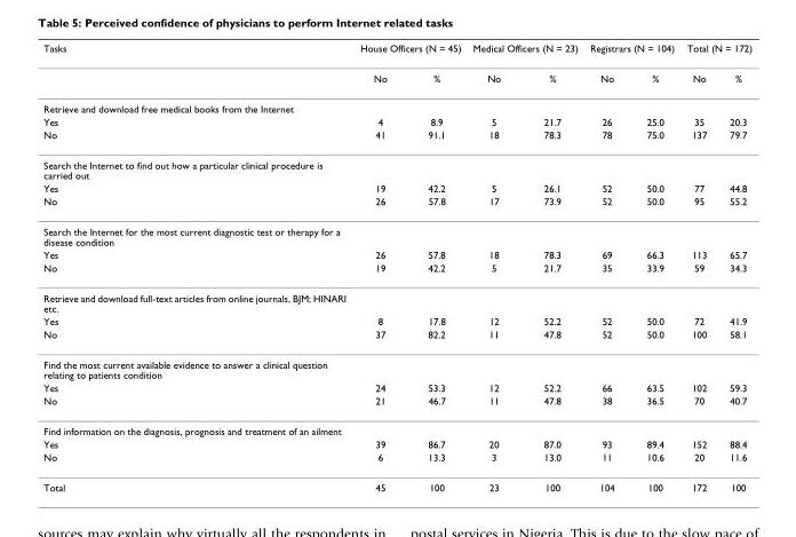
<table><thead><tr><td rowspan="2">Tasks</td><td colspan="2">House Officers (N = 45)</td><td colspan="2">Medical Officers (N = 23)</td><td colspan="2">Registrars (N = 104)</td><td colspan="2">Total (N = 172)</td></tr><tr><td>No</td><td>%</td><td>No</td><td>%</td><td>No</td><td>%</td><td>No</td><td>%</td></tr></thead><tbody><tr><td colspan="9">Retrieve and download free medical books from the Internet</td></tr><tr><td>Yes</td><td>4</td><td>8.9</td><td>5</td><td>21.7</td><td>26</td><td>25.0</td><td>35</td><td>20.3</td></tr><tr><td>No</td><td>41</td><td>91.1</td><td>18</td><td>78.3</td><td>78</td><td>75.0</td><td>137</td><td>79.7</td></tr><tr><td colspan="9">Search the Internet to find out how a particular clinical procedure is carried out</td></tr><tr><td>Yes</td><td>19</td><td>42.2</td><td>5</td><td>26.1</td><td>52</td><td>50.0</td><td>77</td><td>44.8</td></tr><tr><td>No</td><td>26</td><td>57.8</td><td>17</td><td>73.9</td><td>52</td><td>50.0</td><td>95</td><td>55.2</td></tr><tr><td colspan="9">Search the Internet for the most current diagnostic test or therapy for a disease condition</td></tr><tr><td>Yes</td><td>26</td><td>57.8</td><td>18</td><td>78.3</td><td>69</td><td>66.3</td><td>113</td><td>65.7</td></tr><tr><td>No</td><td>19</td><td>42.2</td><td>5</td><td>21.7</td><td>35</td><td>33.9</td><td>59</td><td>34.3</td></tr><tr><td colspan="9">Retrieve and download full-text articles from online journals, BJM; HINARI etc.</td></tr><tr><td>Yes</td><td>8</td><td>17.8</td><td>12</td><td>52.2</td><td>52</td><td>50.0</td><td>72</td><td>41.9</td></tr><tr><td>No</td><td>37</td><td>82.2</td><td>11</td><td>47.8</td><td>52</td><td>50.0</td><td>100</td><td>58.1</td></tr><tr><td colspan="9">Find the most current available evidence to answer a clinical question relating to patients condition</td></tr><tr><td>Yes</td><td>24</td><td>53.3</td><td>12</td><td>52.2</td><td>66</td><td>63.5</td><td>102</td><td>59.3</td></tr><tr><td>No</td><td>21</td><td>46.7</td><td>11</td><td>47.8</td><td>38</td><td>36.5</td><td>70</td><td>40.7</td></tr><tr><td colspan="9">Find information on the diagnosis, prognosis and treatment of an ailment</td></tr><tr><td>Yes</td><td>39</td><td>86.7</td><td>20</td><td>87.0</td><td>93</td><td>89.4</td><td>152</td><td>88.4</td></tr><tr><td>No</td><td>6</td><td>13.3</td><td>3</td><td>13.0</td><td>11</td><td>10.6</td><td>20</td><td>11.6</td></tr><tr><td>Total</td><td>45</td><td>100</td><td>23</td><td>100</td><td>104</td><td>100</td><td>172</td><td>100</td></tr></tbody></table>